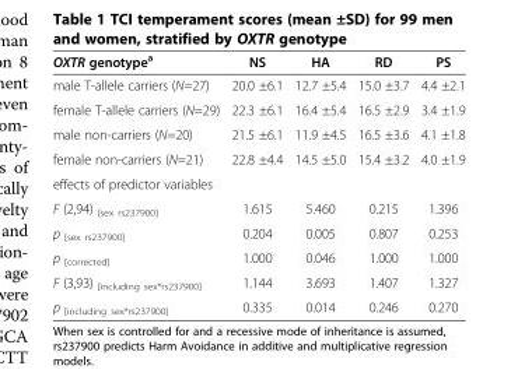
<table><thead><tr><td>OXTR genotype<sup>a</sup></td><td>NS</td><td>HA</td><td>RD</td><td>PS</td></tr></thead><tbody><tr><td>male T-allele carriers (N=27)</td><td>20.0 ±6.1</td><td>12.7 ±5.4</td><td>15.0 ±3.7</td><td>4.4 ±2.1</td></tr><tr><td>female T-allele carriers (N=29)</td><td>22.3 ±6.1</td><td>16.4 ±5.4</td><td>16.5 ±2.9</td><td>3.4 ±1.9</td></tr><tr><td>male non-carriers (N=20)</td><td>21.5 ±6.1</td><td>11.9 ±4.5</td><td>16.5 ±3.6</td><td>4.1 ±1.8</td></tr><tr><td>female non-carriers (N=21)</td><td>22.8 ±4.4</td><td>14.5 ±5.0</td><td>15.4 ±3.2</td><td>4.0 ±1.9</td></tr><tr><td colspan="5">effects of predictor variables</td></tr><tr><td>F (2,94) <sub>[sex rs237900]</sub></td><td>1.615</td><td>5.460</td><td>0.215</td><td>1.396</td></tr><tr><td>p <sub>[sex rs237900]</sub></td><td>0.204</td><td>0.005</td><td>0.807</td><td>0.253</td></tr><tr><td>p <sub>[corrected]</sub></td><td>1.000</td><td>0.046</td><td>1.000</td><td>1.000</td></tr><tr><td>F (3,93) <sub>[including sex*rs237900]</sub></td><td>1.144</td><td>3.693</td><td>1.407</td><td>1.327</td></tr><tr><td>p <sub>[including sex*rs237900]</sub></td><td>0.335</td><td>0.014</td><td>0.246</td><td>0.270</td></tr></tbody></table>